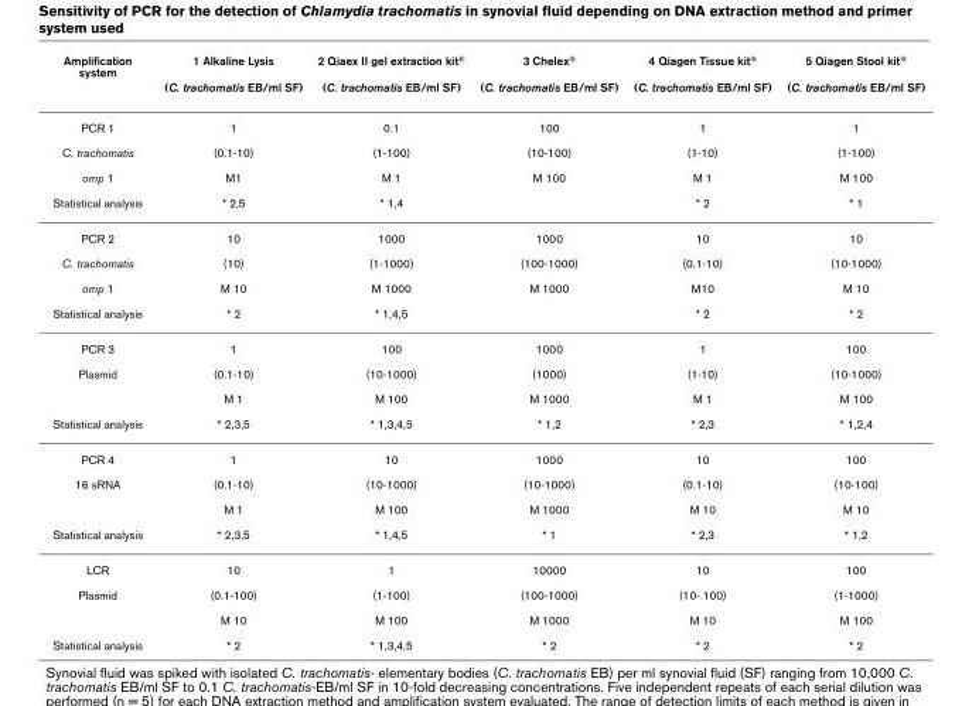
<table><thead><tr><td rowspan="2">Amplification system</td><td rowspan="2">1 Alkaline Lysis (C. trachomatis EB/ml SF)</td><td rowspan="2">2 Qiaex II gel extraction kit<sup>®</sup> (C. trachomatis EB/ml SF)</td><td rowspan="2">3 Chelex<sup>®</sup> (C. trachomatis EB/ml SF)</td><td rowspan="2">4 Qiagen Tissue kit<sup>®</sup> (C. trachomatis EB/ml SF)</td><td rowspan="2">5 Qiagen Stool kit<sup>®</sup> (C. trachomatis EB/ml SF)</td></tr><tr></tr></thead><tbody><tr><td>PCR 1</td><td>1</td><td>0.1</td><td>100</td><td>1</td><td>1</td></tr><tr><td>C. trachomatis</td><td>(0.1-10)</td><td>(1-100)</td><td>(10-100)</td><td>(1-10)</td><td>(1-100)</td></tr><tr><td>omp 1</td><td>M1</td><td>M 1</td><td>M 100</td><td>M 1</td><td>M 100</td></tr><tr><td>Statistical analysis</td><td>* 2,5</td><td>* 1,4</td><td></td><td>* 2</td><td>* 1</td></tr><tr><td>PCR 2</td><td>10</td><td>1000</td><td>1000</td><td>10</td><td>10</td></tr><tr><td>C. trachomatis</td><td>(10)</td><td>(1-1000)</td><td>(100-1000)</td><td>(0.1-10)</td><td>(10-1000)</td></tr><tr><td>omp 1</td><td>M 10</td><td>M 1000</td><td>M 1000</td><td>M10</td><td>M 10</td></tr><tr><td>Statistical analysis</td><td>* 2</td><td>* 1,4,5</td><td></td><td>* 2</td><td>* 2</td></tr><tr><td>PCR 3</td><td>1</td><td>100</td><td>1000</td><td>1</td><td>100</td></tr><tr><td rowspan="2">Plasmid</td><td>(0.1-10)</td><td>(10-1000)</td><td>(1000)</td><td>(1-10)</td><td>(10-1000)</td></tr><tr><td>M 1</td><td>M 100</td><td>M 1000</td><td>M 1</td><td>M 100</td></tr><tr><td>Statistical analysis</td><td>* 2,3,5</td><td>* 1,3,4,5</td><td>* 1,2</td><td>* 2,3</td><td>* 1,2,4</td></tr><tr><td>PCR 4</td><td>1</td><td>10</td><td>1000</td><td>10</td><td>100</td></tr><tr><td rowspan="2">16 sRNA</td><td>(0.1-10)</td><td>(10-1000)</td><td>(10-1000)</td><td>(0.1-10)</td><td>(10-100)</td></tr><tr><td>M 1</td><td>M 100</td><td>M 1000</td><td>M 10</td><td>M 10</td></tr><tr><td>Statistical analysis</td><td>* 2,3,5</td><td>* 1,4,5</td><td>* 1</td><td>* 2,3</td><td>* 1,2</td></tr><tr><td>LCR</td><td>10</td><td>1</td><td>10000</td><td>10</td><td>100</td></tr><tr><td rowspan="2">Plasmid</td><td>(0.1-100)</td><td>(1-100)</td><td>(100-1000)</td><td>(10- 100)</td><td>(1-1000)</td></tr><tr><td>M 10</td><td>M 100</td><td>M 1000</td><td>M 10</td><td>M 100</td></tr><tr><td>Statistical analysis</td><td>* 2</td><td>* 1,3,4,5</td><td>* 2</td><td>* 2</td><td>* 2</td></tr></tbody></table>